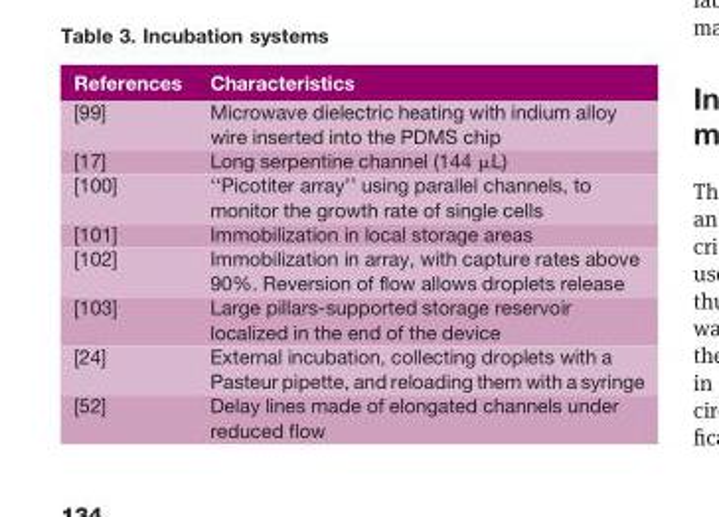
<table><thead><tr><td>References</td><td>Characteristics</td></tr></thead><tbody><tr><td>[99]</td><td>Microwave dielectric heating with indium alloy wire inserted into the PDMS chip</td></tr><tr><td>[17]</td><td>Long serpentine channel (144 µL)</td></tr><tr><td>[100]</td><td>‘‘Picotiter array’’ using parallel channels, to monitor the growth rate of single cells</td></tr><tr><td>[101]</td><td>Immobilization in local storage areas</td></tr><tr><td>[102]</td><td>Immobilization in array, with capture rates above 90%. Reversion of flow allows droplets release</td></tr><tr><td>[103]</td><td>Large pillars-supported storage reservoir localized in the end of the device</td></tr><tr><td>[24]</td><td>External incubation, collecting droplets with a Pasteur pipette, and reloading them with a syringe</td></tr><tr><td>[52]</td><td>Delay lines made of elongated channels under reduced flow</td></tr></tbody></table>